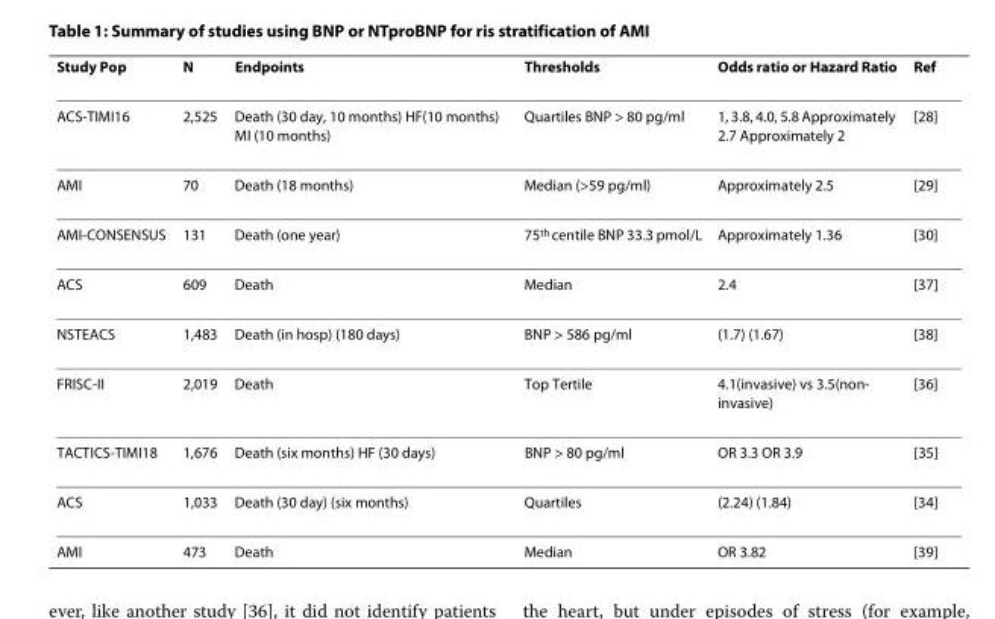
<table><thead><tr><td>Study Pop</td><td>N</td><td>Endpoints</td><td>Thresholds</td><td>Odds ratio or Hazard Ratio</td><td>Ref</td></tr></thead><tbody><tr><td>ACS-TIMI16</td><td>2,525</td><td>Death (30 day, 10 months) HF(10 months) MI (10 months)</td><td>Quartiles BNP &gt; 80 pg/ml</td><td>1, 3.8, 4.0, 5.8 Approximately 2.7 Approximately 2</td><td>[28]</td></tr><tr><td>AMI</td><td>70</td><td>Death (18 months)</td><td>Median (&gt;59 pg/ml)</td><td>Approximately 2.5</td><td>[29]</td></tr><tr><td>AMI-CONSENSUS</td><td>131</td><td>Death (one year)</td><td>75<sup>th</sup> centile BNP 33.3 pmol/L</td><td>Approximately 1.36</td><td>[30]</td></tr><tr><td>ACS</td><td>609</td><td>Death</td><td>Median</td><td>2.4</td><td>[37]</td></tr><tr><td>NSTEACS</td><td>1,483</td><td>Death (in hosp) (180 days)</td><td>BNP &gt; 586 pg/ml</td><td>(1.7) (1.67)</td><td>[38]</td></tr><tr><td>FRISC-II</td><td>2,019</td><td>Death</td><td>Top Tertile</td><td>4.1(invasive) vs 3.5(non- invasive)</td><td>[36]</td></tr><tr><td>TACTICS-TIMI18</td><td>1,676</td><td>Death (six months) HF (30 days)</td><td>BNP &gt; 80 pg/ml</td><td>OR 3.3 OR 3.9</td><td>[35]</td></tr><tr><td>ACS</td><td>1,033</td><td>Death (30 day) (six months)</td><td>Quartiles</td><td>(2.24) (1.84)</td><td>[34]</td></tr><tr><td>AMI</td><td>473</td><td>Death</td><td>Median</td><td>OR 3.82</td><td>[39]</td></tr></tbody></table>